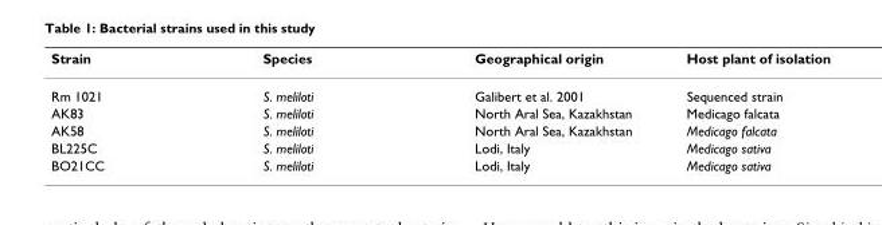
<table><thead><tr><td>Strain</td><td>Species</td><td>Geographical origin</td><td>Host plant of isolation</td></tr></thead><tbody><tr><td>Rm 1021</td><td>S. meliloti</td><td>Galibert et al. 2001</td><td>Sequenced strain</td></tr><tr><td>AK83</td><td>S. meliloti</td><td>North Aral Sea, Kazakhstan</td><td>Medicago falcata</td></tr><tr><td>AK58</td><td>S. meliloti</td><td>North Aral Sea, Kazakhstan</td><td>Medicago falcata</td></tr><tr><td>BL225C</td><td>S. meliloti</td><td>Lodi, Italy</td><td>Medicago sativa</td></tr><tr><td>BO21CC</td><td>S. meliloti</td><td>Lodi, Italy</td><td>Medicago sativa</td></tr></tbody></table>